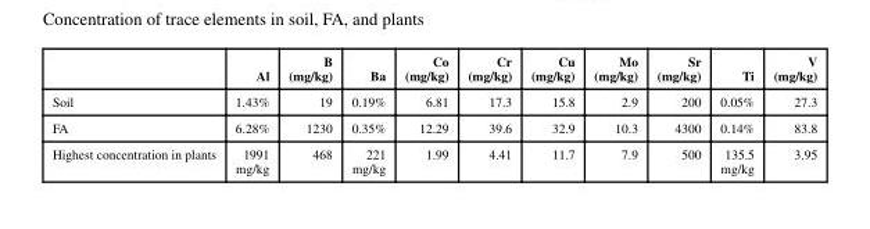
<table><thead><tr><td></td><td>Al</td><td>B (mg/kg)</td><td>Ba</td><td>Co (mg/kg)</td><td>Cr (mg/kg)</td><td>Cu (mg/kg)</td><td>Mo (mg/kg)</td><td>Sr (mg/kg)</td><td>Ti</td><td>V (mg/kg)</td></tr></thead><tbody><tr><td>Soil</td><td>1.43%</td><td>19</td><td>0.19%</td><td>6.81</td><td>17.3</td><td>15.8</td><td>2.9</td><td>200</td><td>0.05%</td><td>27.3</td></tr><tr><td>FA</td><td>6.28%</td><td>1230</td><td>0.35%</td><td>12.29</td><td>39.6</td><td>32.9</td><td>10.3</td><td>4300</td><td>0.14%</td><td>83.8</td></tr><tr><td>Highest concentration in plants</td><td>1991 mg/kg</td><td>468</td><td>221 mg/kg</td><td>1.99</td><td>4.41</td><td>11.7</td><td>7.9</td><td>500</td><td>135.5 mg/kg</td><td>3.95</td></tr></tbody></table>